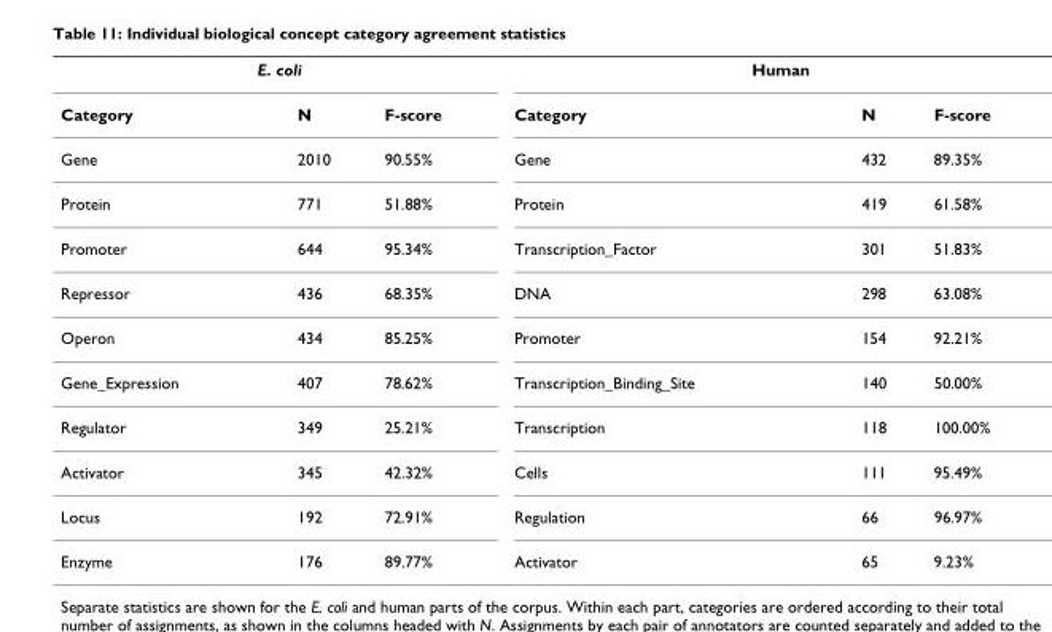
<table><tbody><tr><td colspan="3">E. coli</td><td colspan="3">Human</td></tr><tr><td>Category</td><td>N</td><td>F-score</td><td>Category</td><td>N</td><td>F-score</td></tr><tr><td>Gene</td><td>2010</td><td>90.55%</td><td>Gene</td><td>432</td><td>89.35%</td></tr><tr><td>Protein</td><td>771</td><td>51.88%</td><td>Protein</td><td>419</td><td>61.58%</td></tr><tr><td>Promoter</td><td>644</td><td>95.34%</td><td>Transcription_Factor</td><td>301</td><td>51.83%</td></tr><tr><td>Repressor</td><td>436</td><td>68.35%</td><td>DNA</td><td>298</td><td>63.08%</td></tr><tr><td>Operon</td><td>434</td><td>85.25%</td><td>Promoter</td><td>154</td><td>92.21%</td></tr><tr><td>Gene_Expression</td><td>407</td><td>78.62%</td><td>Transcription_Binding_Site</td><td>140</td><td>50.00%</td></tr><tr><td>Regulator</td><td>349</td><td>25.21%</td><td>Transcription</td><td>118</td><td>100.00%</td></tr><tr><td>Activator</td><td>345</td><td>42.32%</td><td>Cells</td><td>111</td><td>95.49%</td></tr><tr><td>Locus</td><td>192</td><td>72.91%</td><td>Regulation</td><td>66</td><td>96.97%</td></tr><tr><td>Enzyme</td><td>176</td><td>89.77%</td><td>Activator</td><td>65</td><td>9.23%</td></tr></tbody></table>